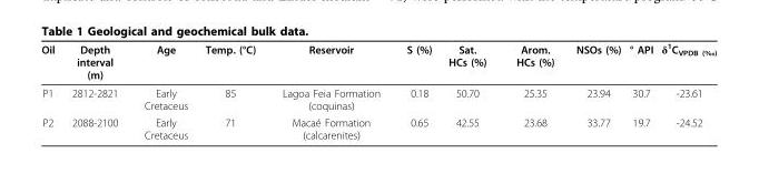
<table><thead><tr><td>Oil</td><td>Depth interval (m)</td><td>Age</td><td>Temp. (°C)</td><td>Reservoir</td><td>S (%)</td><td>Sat. HCs (%)</td><td>Arom. HCs (%)</td><td>NSOs (%)</td><td>° API</td><td>δ<sup>1</sup>C<sub>VPDB (‰)</sub></td></tr></thead><tbody><tr><td>P1</td><td>2812-2821</td><td>Early Cretaceus</td><td>85</td><td>Lagoa Feia Formation (coquinas)</td><td>0.18</td><td>50.70</td><td>25.35</td><td>23.94</td><td>30.7</td><td>-23.61</td></tr><tr><td>P2</td><td>2088-2100</td><td>Early Cretaceus</td><td>71</td><td>Macaé Formation (calcarenites)</td><td>0.65</td><td>42.55</td><td>23.68</td><td>33.77</td><td>19.7</td><td>-24.52</td></tr></tbody></table>